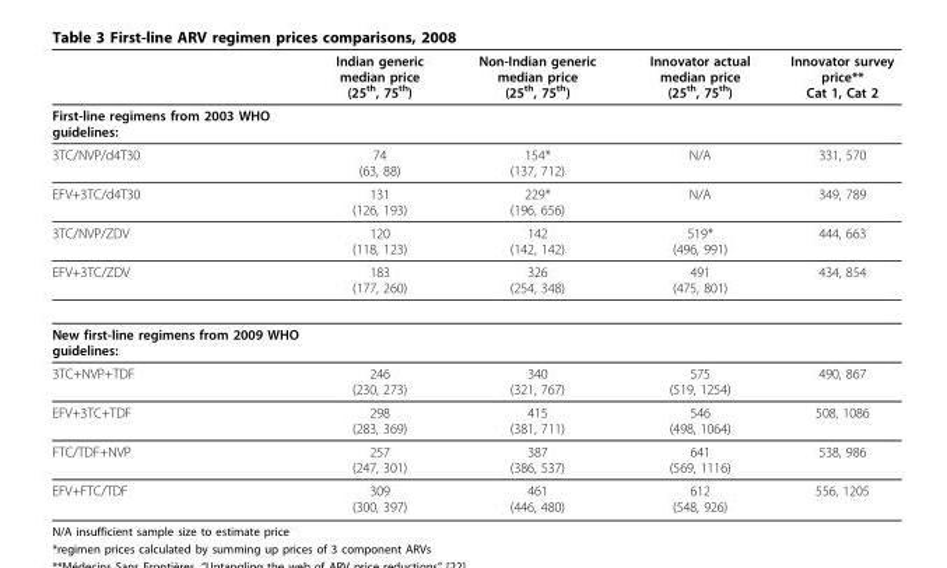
<table><thead><tr><td></td><td>Indian generic median price (25<sup>th</sup>, 75<sup>th</sup>)</td><td>Non-Indian generic median price (25<sup>th</sup>, 75<sup>th</sup>)</td><td>Innovator actual median price (25<sup>th</sup>, 75<sup>th</sup>)</td><td>Innovator survey price** Cat 1, Cat 2</td></tr></thead><tbody><tr><td colspan="5">First-line regimens from 2003 WHO guidelines:</td></tr><tr><td>3TC/NVP/d4T30</td><td>74 (63, 88)</td><td>154* (137, 712)</td><td>N/A</td><td>331, 570</td></tr><tr><td>EFV+3TC/d4T30</td><td>131 (126, 193)</td><td>229* (196, 656)</td><td>N/A</td><td>349, 789</td></tr><tr><td>3TC/NVP/ZDV</td><td>120 (118, 123)</td><td>142 (142, 142)</td><td>519* (496, 991)</td><td>444, 663</td></tr><tr><td>EFV+3TC/ZDV</td><td>183 (177, 260)</td><td>326 (254, 348)</td><td>491 (475, 801)</td><td>434, 854</td></tr><tr><td colspan="5">New first-line regimens from 2009 WHO guidelines:</td></tr><tr><td>3TC+NVP+TDF</td><td>246 (230, 273)</td><td>340 (321, 767)</td><td>575 (519, 1254)</td><td>490, 867</td></tr><tr><td>EFV+3TC+TDF</td><td>298 (283, 369)</td><td>415 (381, 711)</td><td>546 (498, 1064)</td><td>508, 1086</td></tr><tr><td>FTC/TDF+NVP</td><td>257 (247, 301)</td><td>387 (386, 537)</td><td>641 (569, 1116)</td><td>538, 986</td></tr><tr><td>EFV+FTC/TDF</td><td>309 (300, 397)</td><td>461 (446, 480)</td><td>612 (548, 926)</td><td>556, 1205</td></tr></tbody></table>